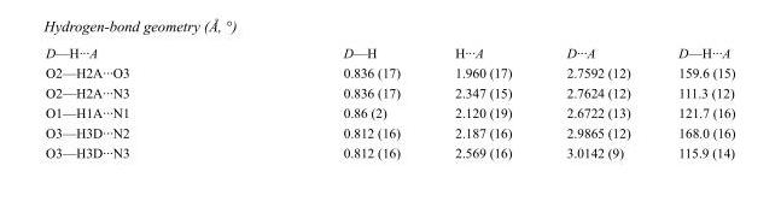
<table><tbody><tr><td>D—H···A</td><td>D—H</td><td>H···A</td><td>D···A</td><td>D—H···A</td></tr><tr><td>O2—H2A···O3</td><td>0.836 (17)</td><td>1.960 (17)</td><td>2.7592 (12)</td><td>159.6 (15)</td></tr><tr><td>O2—H2A···N3</td><td>0.836 (17)</td><td>2.347 (15)</td><td>2.7624 (12)</td><td>111.3 (12)</td></tr><tr><td>O1—H1A···N1</td><td>0.86 (2)</td><td>2.120 (19)</td><td>2.6722 (13)</td><td>121.7 (16)</td></tr><tr><td>O3—H3D···N2</td><td>0.812 (16)</td><td>2.187 (16)</td><td>2.9865 (12)</td><td>168.0 (16)</td></tr><tr><td>O3—H3D···N3</td><td>0.812 (16)</td><td>2.569 (16)</td><td>3.0142 (9)</td><td>115.9 (14)</td></tr></tbody></table>